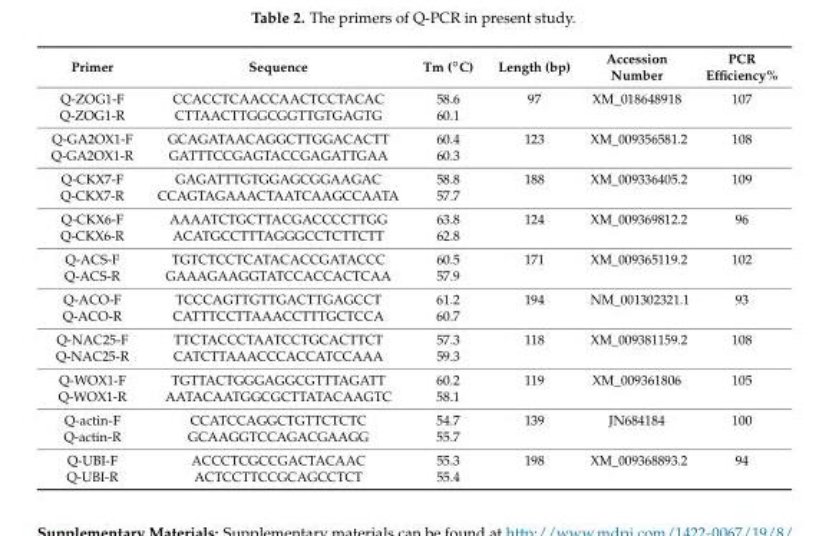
<table><thead><tr><td>Primer</td><td>Sequence</td><td>Tm (◦C)</td><td>Length (bp)</td><td>Accession Number</td><td>PCR Efficiency%</td></tr></thead><tbody><tr><td>Q-ZOG1-F</td><td>CCACCTCAACCAACTCCTACAC</td><td>58.6</td><td>97</td><td>XM_018648918</td><td>107</td></tr><tr><td>Q-ZOG1-R</td><td>CTTAACTTGGCGGTTGTGAGTG</td><td>60.1</td><td></td><td></td><td></td></tr><tr><td>Q-GA2OX1-F</td><td>GCAGATAACAGGCTTGGACACTT</td><td>60.4</td><td>123</td><td>XM_009356581.2</td><td>108</td></tr><tr><td>Q-GA2OX1-R</td><td>GATTTCCGAGTACCGAGATTGAA</td><td>60.3</td><td></td><td></td><td></td></tr><tr><td>Q-CKX7-F</td><td>GAGATTTGTGGAGCGGAAGAC</td><td>58.8</td><td>188</td><td>XM_009336405.2</td><td>109</td></tr><tr><td>Q-CKX7-R</td><td>CCAGTAGAAACTAATCAAGCCAATA</td><td>57.7</td><td></td><td></td><td></td></tr><tr><td>Q-CKX6-F</td><td>AAAATCTGCTTACGACCCCTTGG</td><td>63.8</td><td>124</td><td>XM_009369812.2</td><td>96</td></tr><tr><td>Q-CKX6-R</td><td>ACATGCCTTTAGGGCCTCTTCTT</td><td>62.8</td><td></td><td></td><td></td></tr><tr><td>Q-ACS-F</td><td>TGTCTCCTCATACACCGATACCC</td><td>60.5</td><td>171</td><td>XM_009365119.2</td><td>102</td></tr><tr><td>Q-ACS-R</td><td>GAAAGAAGGTATCCACCACTCAA</td><td>57.9</td><td></td><td></td><td></td></tr><tr><td>Q-ACO-F</td><td>TCCCAGTTGTTGACTTGAGCCT</td><td>61.2</td><td>194</td><td>NM_001302321.1</td><td>93</td></tr><tr><td>Q-ACO-R</td><td>CATTTCCTTAAACCTTTGCTCCA</td><td>60.7</td><td></td><td></td><td></td></tr><tr><td>Q-NAC25-F</td><td>TTCTACCCTAATCCTGCACTTCT</td><td>57.3</td><td>118</td><td>XM_009381159.2</td><td>108</td></tr><tr><td>Q-NAC25-R</td><td>CATCTTAAACCCACCATCCAAA</td><td>59.3</td><td></td><td></td><td></td></tr><tr><td>Q-WOX1-F</td><td>TGTTACTGGGAGGCGTTTAGATT</td><td>60.2</td><td>119</td><td>XM_009361806</td><td>105</td></tr><tr><td>Q-WOX1-R</td><td>AATACAATGGCGCTTATACAAGTC</td><td>58.1</td><td></td><td></td><td></td></tr><tr><td>Q-actin-F</td><td>CCATCCAGGCTGTTCTCTC</td><td>54.7</td><td>139</td><td>JN684184</td><td>100</td></tr><tr><td>Q-actin-R</td><td>GCAAGGTCCAGACGAAGG</td><td>55.7</td><td></td><td></td><td></td></tr><tr><td>Q-UBI-F</td><td>ACCCTCGCCGACTACAAC</td><td>55.3</td><td>198</td><td>XM_009368893.2</td><td>94</td></tr><tr><td>Q-UBI-R</td><td>ACTCCTTCCGCAGCCTCT</td><td>55.4</td><td></td><td></td><td></td></tr></tbody></table>